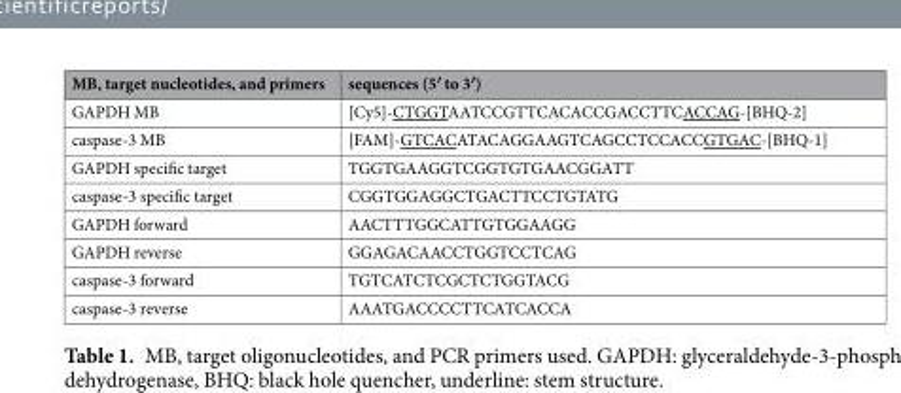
<table><thead><tr><td>MB, target nucleotides, and primers</td><td>sequences (5′ to 3′)</td></tr></thead><tbody><tr><td>GAPDH MB</td><td>[Cy5]-CTGGTAATCCGTTCACACCGACCTTCACCAG-[BHQ-2]</td></tr><tr><td>caspase-3 MB</td><td>[FAM]-GTCACATACAGGAAGTCAGCCTCCACCGTGAC-[BHQ-1]</td></tr><tr><td>GAPDH specific target</td><td>TGGTGAAGGTCGGTGTGAACGGATT</td></tr><tr><td>caspase-3 specific target</td><td>CGGTGGAGGCTGACTTCCTGTATG</td></tr><tr><td>GAPDH forward</td><td>AACTTTGGCATTGTGGAAGG</td></tr><tr><td>GAPDH reverse</td><td>GGAGACAACCTGGTCCTCAG</td></tr><tr><td>caspase-3 forward</td><td>TGTCATCTCGCTCTGGTACG</td></tr><tr><td>caspase-3 reverse</td><td>AAATGACCCCTTCATCACCA</td></tr></tbody></table>